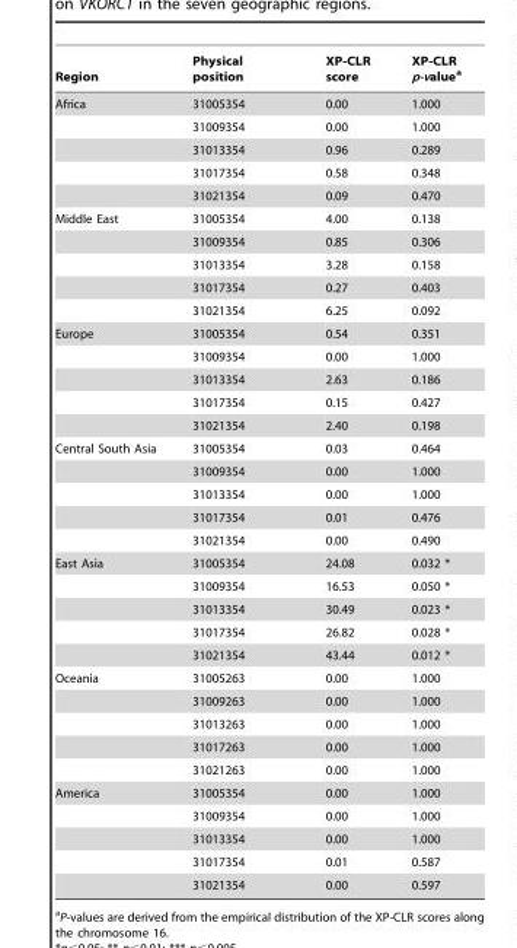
<table><thead><tr><td>Region</td><td>Physical position</td><td>XP-CLR score</td><td>XP-CLR p-value<sup>a</sup></td></tr></thead><tbody><tr><td rowspan="5">Africa</td><td>31005354</td><td>0.00</td><td>1.000</td></tr><tr><td>31009354</td><td>0.00</td><td>1.000</td></tr><tr><td>31013354</td><td>0.96</td><td>0.289</td></tr><tr><td>31017354</td><td>0.58</td><td>0.348</td></tr><tr><td>31021354</td><td>0.09</td><td>0.470</td></tr><tr><td rowspan="5">Middle East</td><td>31005354</td><td>4.00</td><td>0.138</td></tr><tr><td>31009354</td><td>0.85</td><td>0.306</td></tr><tr><td>31013354</td><td>3.28</td><td>0.158</td></tr><tr><td>31017354</td><td>0.27</td><td>0.403</td></tr><tr><td>31021354</td><td>6.25</td><td>0.092</td></tr><tr><td rowspan="5">Europe</td><td>31005354</td><td>0.54</td><td>0.351</td></tr><tr><td>31009354</td><td>0.00</td><td>1.000</td></tr><tr><td>31013354</td><td>2.63</td><td>0.186</td></tr><tr><td>31017354</td><td>0.15</td><td>0.427</td></tr><tr><td>31021354</td><td>2.40</td><td>0.198</td></tr><tr><td rowspan="5">Central South Asia</td><td>31005354</td><td>0.03</td><td>0.464</td></tr><tr><td>31009354</td><td>0.00</td><td>1.000</td></tr><tr><td>31013354</td><td>0.00</td><td>1.000</td></tr><tr><td>31017354</td><td>0.01</td><td>0.476</td></tr><tr><td>31021354</td><td>0.00</td><td>0.490</td></tr><tr><td rowspan="5">East Asia</td><td>31005354</td><td>24.08</td><td>0.032 *</td></tr><tr><td>31009354</td><td>16.53</td><td>0.050 *</td></tr><tr><td>31013354</td><td>30.49</td><td>0.023 *</td></tr><tr><td>31017354</td><td>26.82</td><td>0.028 *</td></tr><tr><td>31021354</td><td>43.44</td><td>0.012 *</td></tr><tr><td rowspan="5">Oceania</td><td>31005263</td><td>0.00</td><td>1.000</td></tr><tr><td>31009263</td><td>0.00</td><td>1.000</td></tr><tr><td>31013263</td><td>0.00</td><td>1.000</td></tr><tr><td>31017263</td><td>0.00</td><td>1.000</td></tr><tr><td>31021263</td><td>0.00</td><td>1.000</td></tr><tr><td rowspan="5">America</td><td>31005354</td><td>0.00</td><td>1.000</td></tr><tr><td>31009354</td><td>0.00</td><td>1.000</td></tr><tr><td>31013354</td><td>0.00</td><td>1.000</td></tr><tr><td>31017354</td><td>0.01</td><td>0.587</td></tr><tr><td>31021354</td><td>0.00</td><td>0.597</td></tr></tbody></table>